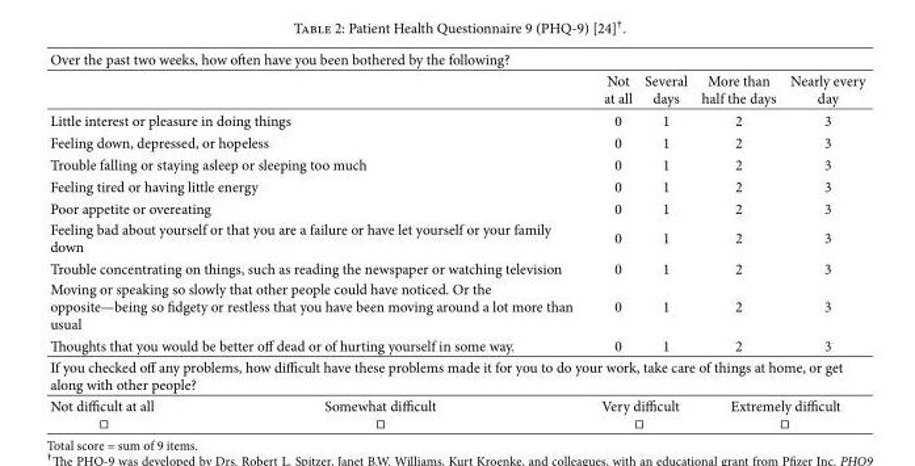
<table><tbody><tr><td colspan="6">Over the past two weeks, how often have you been bothered by the following?</td></tr><tr><td colspan="2"></td><td>Not at all</td><td>Several days</td><td>More than half the days</td><td>Nearly every day</td></tr><tr><td colspan="2">Little interest or pleasure in doing things</td><td>0</td><td>1</td><td>2</td><td>3</td></tr><tr><td colspan="2">Feeling down, depressed, or hopeless</td><td>0</td><td>1</td><td>2</td><td>3</td></tr><tr><td colspan="2">Trouble falling or staying asleep or sleeping too much</td><td>0</td><td>1</td><td>2</td><td>3</td></tr><tr><td colspan="2">Feeling tired or having little energy</td><td>0</td><td>1</td><td>2</td><td>3</td></tr><tr><td colspan="2">Poor appetite or overeating</td><td>0</td><td>1</td><td>2</td><td>3</td></tr><tr><td colspan="2">Feeling bad about yourself or that you are a failure or have let yourself or your family down</td><td>0</td><td>1</td><td>2</td><td>3</td></tr><tr><td colspan="2">Trouble concentrating on things, such as reading the newspaper or watching television</td><td>0</td><td>1</td><td>2</td><td>3</td></tr><tr><td colspan="2">Moving or speaking so slowly that other people could have noticed. Or the opposite—being so fidgety or restless that you have been moving around a lot more than usual</td><td>0</td><td>1</td><td>2</td><td>3</td></tr><tr><td colspan="2">Thoughts that you would be better off dead or of hurting yourself in some way.</td><td>0</td><td>1</td><td>2</td><td>3</td></tr><tr><td colspan="6">If you checked off any problems, how difficult have these problems made it for you to do your work, take care of things at home, or get along with other people?</td></tr><tr><td>Not difficult at all</td><td>Somewhat difficult</td><td colspan="2">Very difficult</td><td colspan="2">Extremely difficult</td></tr></tbody></table>